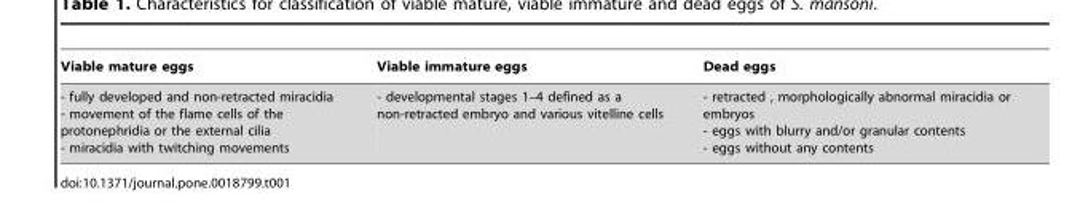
<table><thead><tr><td>Viable mature eggs</td><td>Viable immature eggs</td><td>Dead eggs</td></tr></thead><tbody><tr><td>- fully developed and non-retracted miracidia - movement of the flame cells of the protonephridia or the external cilia - miracidia with twitching movements</td><td>- developmental stages 1–4 defined as a non-retracted embryo and various vitelline cells</td><td>- retracted , morphologically abnormal miracidia or embryos - eggs with blurry and/or granular contents - eggs without any contents</td></tr></tbody></table>